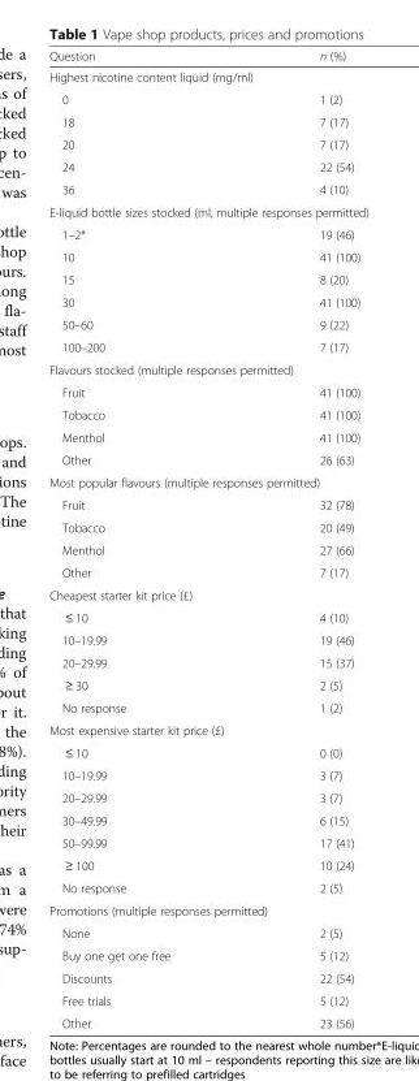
<table><thead><tr><td>Question</td><td>n (%)</td></tr></thead><tbody><tr><td colspan="2">Highest nicotine content liquid (mg/ml)</td></tr><tr><td>0</td><td>1 (2)</td></tr><tr><td>18</td><td>7 (17)</td></tr><tr><td>20</td><td>7 (17)</td></tr><tr><td>24</td><td>22 (54)</td></tr><tr><td>36</td><td>4 (10)</td></tr><tr><td colspan="2">E-liquid bottle sizes stocked (ml, multiple responses permitted)</td></tr><tr><td>1–2*</td><td>19 (46)</td></tr><tr><td>10</td><td>41 (100)</td></tr><tr><td>15</td><td>8 (20)</td></tr><tr><td>30</td><td>41 (100)</td></tr><tr><td>50–60</td><td>9 (22)</td></tr><tr><td>100–200</td><td>7 (17)</td></tr><tr><td colspan="2">Flavours stocked (multiple responses permitted)</td></tr><tr><td>Fruit</td><td>41 (100)</td></tr><tr><td>Tobacco</td><td>41 (100)</td></tr><tr><td>Menthol</td><td>41 (100)</td></tr><tr><td>Other</td><td>26 (63)</td></tr><tr><td colspan="2">Most popular flavours (multiple responses permitted)</td></tr><tr><td>Fruit</td><td>32 (78)</td></tr><tr><td>Tobacco</td><td>20 (49)</td></tr><tr><td>Menthol</td><td>27 (66)</td></tr><tr><td>Other</td><td>7 (17)</td></tr><tr><td colspan="2">Cheapest starter kit price (£)</td></tr><tr><td>≤ 10</td><td>4 (10)</td></tr><tr><td>10–19.99</td><td>19 (46)</td></tr><tr><td>20–29.99</td><td>15 (37)</td></tr><tr><td>≥ 30</td><td>2 (5)</td></tr><tr><td>No response</td><td>1 (2)</td></tr><tr><td colspan="2">Most expensive starter kit price (£)</td></tr><tr><td>≤ 10</td><td>0 (0)</td></tr><tr><td>10–19.99</td><td>3 (7)</td></tr><tr><td>20–29.99</td><td>3 (7)</td></tr><tr><td>30–49.99</td><td>6 (15)</td></tr><tr><td>50–99.99</td><td>17 (41)</td></tr><tr><td>≥ 100</td><td>10 (24)</td></tr><tr><td>No response</td><td>2 (5)</td></tr><tr><td colspan="2">Promotions (multiple responses permitted)</td></tr><tr><td>None</td><td>2 (5)</td></tr><tr><td>Buy one get one free</td><td>5 (12)</td></tr><tr><td>Discounts</td><td>22 (54)</td></tr><tr><td>Free trials</td><td>5 (12)</td></tr><tr><td>Other</td><td>23 (56)</td></tr></tbody></table>